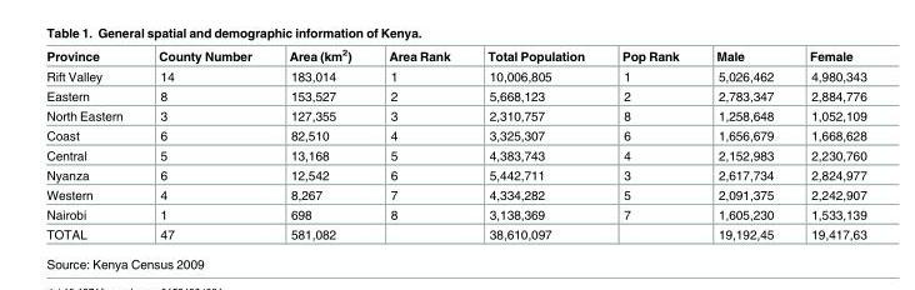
<table><thead><tr><td>Province</td><td>County Number</td><td>Area (km<sup>2</sup>)</td><td>Area Rank</td><td>Total Population</td><td>Pop Rank</td><td>Male</td><td>Female</td></tr></thead><tbody><tr><td>Rift Valley</td><td>14</td><td>183,014</td><td>1</td><td>10,006,805</td><td>1</td><td>5,026,462</td><td>4,980,343</td></tr><tr><td>Eastern</td><td>8</td><td>153,527</td><td>2</td><td>5,668,123</td><td>2</td><td>2,783,347</td><td>2,884,776</td></tr><tr><td>North Eastern</td><td>3</td><td>127,355</td><td>3</td><td>2,310,757</td><td>8</td><td>1,258,648</td><td>1,052,109</td></tr><tr><td>Coast</td><td>6</td><td>82,510</td><td>4</td><td>3,325,307</td><td>6</td><td>1,656,679</td><td>1,668,628</td></tr><tr><td>Central</td><td>5</td><td>13,168</td><td>5</td><td>4,383,743</td><td>4</td><td>2,152,983</td><td>2,230,760</td></tr><tr><td>Nyanza</td><td>6</td><td>12,542</td><td>6</td><td>5,442,711</td><td>3</td><td>2,617,734</td><td>2,824,977</td></tr><tr><td>Western</td><td>4</td><td>8,267</td><td>7</td><td>4,334,282</td><td>5</td><td>2,091,375</td><td>2,242,907</td></tr><tr><td>Nairobi</td><td>1</td><td>698</td><td>8</td><td>3,138,369</td><td>7</td><td>1,605,230</td><td>1,533,139</td></tr><tr><td>TOTAL</td><td>47</td><td>581,082</td><td></td><td>38,610,097</td><td></td><td>19,192,45</td><td>19,417,63</td></tr></tbody></table>